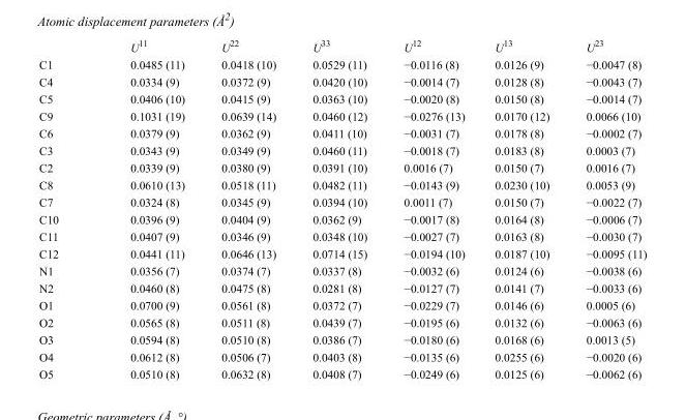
<table><thead><tr><td></td><td>U<sup>11</sup></td><td>U<sup>22</sup></td><td>U<sup>33</sup></td><td>U<sup>12</sup></td><td>U<sup>13</sup></td><td>U<sup>23</sup></td></tr></thead><tbody><tr><td>C1</td><td>0.0485 (11)</td><td>0.0418 (10)</td><td>0.0529 (11)</td><td>−0.0116 (8)</td><td>0.0126 (9)</td><td>−0.0047 (8)</td></tr><tr><td>C4</td><td>0.0334 (9)</td><td>0.0372 (9)</td><td>0.0420 (10)</td><td>−0.0014 (7)</td><td>0.0128 (8)</td><td>−0.0043 (7)</td></tr><tr><td>C5</td><td>0.0406 (10)</td><td>0.0415 (9)</td><td>0.0363 (10)</td><td>−0.0020 (8)</td><td>0.0150 (8)</td><td>−0.0014 (7)</td></tr><tr><td>C9</td><td>0.1031 (19)</td><td>0.0639 (14)</td><td>0.0460 (12)</td><td>−0.0276 (13)</td><td>0.0170 (12)</td><td>0.0066 (10)</td></tr><tr><td>C6</td><td>0.0379 (9)</td><td>0.0362 (9)</td><td>0.0411 (10)</td><td>−0.0031 (7)</td><td>0.0178 (8)</td><td>−0.0002 (7)</td></tr><tr><td>C3</td><td>0.0343 (9)</td><td>0.0349 (9)</td><td>0.0460 (11)</td><td>−0.0018 (7)</td><td>0.0183 (8)</td><td>0.0003 (7)</td></tr><tr><td>C2</td><td>0.0339 (9)</td><td>0.0380 (9)</td><td>0.0391 (10)</td><td>0.0016 (7)</td><td>0.0150 (7)</td><td>0.0016 (7)</td></tr><tr><td>C8</td><td>0.0610 (13)</td><td>0.0518 (11)</td><td>0.0482 (11)</td><td>−0.0143 (9)</td><td>0.0230 (10)</td><td>0.0053 (9)</td></tr><tr><td>C7</td><td>0.0324 (8)</td><td>0.0345 (9)</td><td>0.0394 (10)</td><td>0.0011 (7)</td><td>0.0150 (7)</td><td>−0.0022 (7)</td></tr><tr><td>C10</td><td>0.0396 (9)</td><td>0.0404 (9)</td><td>0.0362 (9)</td><td>−0.0017 (8)</td><td>0.0164 (8)</td><td>−0.0006 (7)</td></tr><tr><td>C11</td><td>0.0407 (9)</td><td>0.0346 (9)</td><td>0.0348 (10)</td><td>−0.0027 (7)</td><td>0.0163 (8)</td><td>−0.0030 (7)</td></tr><tr><td>C12</td><td>0.0441 (11)</td><td>0.0646 (13)</td><td>0.0714 (15)</td><td>−0.0194 (10)</td><td>0.0187 (10)</td><td>−0.0095 (11)</td></tr><tr><td>N1</td><td>0.0356 (7)</td><td>0.0374 (7)</td><td>0.0337 (8)</td><td>−0.0032 (6)</td><td>0.0124 (6)</td><td>−0.0038 (6)</td></tr><tr><td>N2</td><td>0.0460 (8)</td><td>0.0475 (8)</td><td>0.0281 (8)</td><td>−0.0127 (7)</td><td>0.0141 (7)</td><td>−0.0033 (6)</td></tr><tr><td>O1</td><td>0.0700 (9)</td><td>0.0561 (8)</td><td>0.0372 (7)</td><td>−0.0229 (7)</td><td>0.0146 (6)</td><td>0.0005 (6)</td></tr><tr><td>O2</td><td>0.0565 (8)</td><td>0.0511 (8)</td><td>0.0439 (7)</td><td>−0.0195 (6)</td><td>0.0132 (6)</td><td>−0.0063 (6)</td></tr><tr><td>O3</td><td>0.0594 (8)</td><td>0.0510 (8)</td><td>0.0386 (7)</td><td>−0.0180 (6)</td><td>0.0168 (6)</td><td>0.0013 (5)</td></tr><tr><td>O4</td><td>0.0612 (8)</td><td>0.0506 (7)</td><td>0.0403 (8)</td><td>−0.0135 (6)</td><td>0.0255 (6)</td><td>−0.0020 (6)</td></tr><tr><td>O5</td><td>0.0510 (8)</td><td>0.0632 (8)</td><td>0.0408 (7)</td><td>−0.0249 (6)</td><td>0.0125 (6)</td><td>−0.0062 (6)</td></tr></tbody></table>